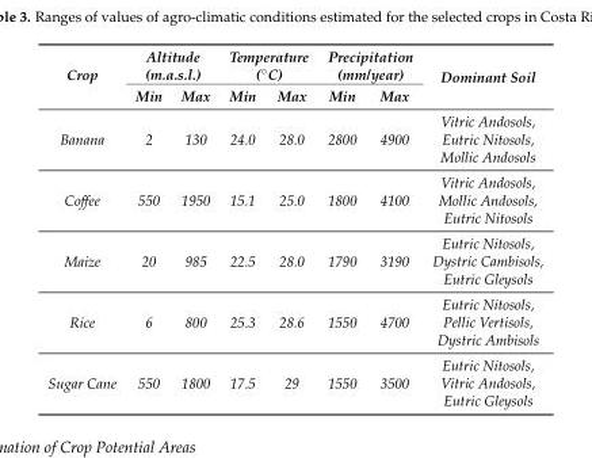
<table><thead><tr><td rowspan="2">Crop</td><td colspan="2">Altitude (m.a.s.l.)</td><td colspan="2">Temperature (◦C)</td><td colspan="2">Precipitation (mm/year)</td><td rowspan="2">Dominant Soil</td></tr><tr><td>Min</td><td>Max</td><td>Min</td><td>Max</td><td>Min</td><td>Max</td></tr></thead><tbody><tr><td>Banana</td><td>2</td><td>130</td><td>24.0</td><td>28.0</td><td>2800</td><td>4900</td><td>Vitric Andosols, Eutric Nitosols, Mollic Andosols</td></tr><tr><td>Coffee</td><td>550</td><td>1950</td><td>15.1</td><td>25.0</td><td>1800</td><td>4100</td><td>Vitric Andosols, Mollic Andosols, Eutric Nitosols</td></tr><tr><td>Maize</td><td>20</td><td>985</td><td>22.5</td><td>28.0</td><td>1790</td><td>3190</td><td>Eutric Nitosols, Dystric Cambisols, Eutric Gleysols</td></tr><tr><td>Rice</td><td>6</td><td>800</td><td>25.3</td><td>28.6</td><td>1550</td><td>4700</td><td>Eutric Nitosols, Pellic Vertisols, Dystric Ambisols</td></tr><tr><td>Sugar Cane</td><td>550</td><td>1800</td><td>17.5</td><td>29</td><td>1550</td><td>3500</td><td>Eutric Nitosols, Vitric Andosols, Eutric Gleysols</td></tr></tbody></table>